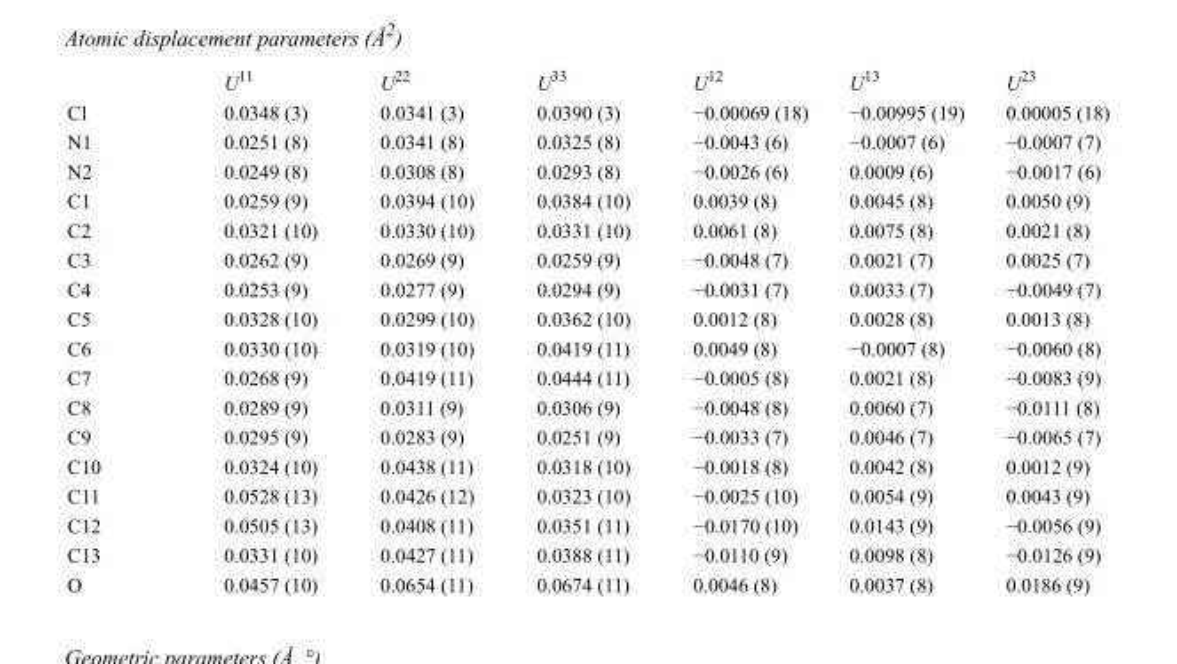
<table><thead><tr><td></td><td>U<sup>11</sup></td><td>U<sup>22</sup></td><td>U<sup>33</sup></td><td>U<sup>12</sup></td><td>U<sup>13</sup></td><td>U<sup>23</sup></td></tr></thead><tbody><tr><td>Cl</td><td>0.0348 (3)</td><td>0.0341 (3)</td><td>0.0390 (3)</td><td>−0.00069 (18)</td><td>−0.00995 (19)</td><td>0.00005 (18)</td></tr><tr><td>N1</td><td>0.0251 (8)</td><td>0.0341 (8)</td><td>0.0325 (8)</td><td>−0.0043 (6)</td><td>−0.0007 (6)</td><td>−0.0007 (7)</td></tr><tr><td>N2</td><td>0.0249 (8)</td><td>0.0308 (8)</td><td>0.0293 (8)</td><td>−0.0026 (6)</td><td>0.0009 (6)</td><td>−0.0017 (6)</td></tr><tr><td>C1</td><td>0.0259 (9)</td><td>0.0394 (10)</td><td>0.0384 (10)</td><td>0.0039 (8)</td><td>0.0045 (8)</td><td>0.0050 (9)</td></tr><tr><td>C2</td><td>0.0321 (10)</td><td>0.0330 (10)</td><td>0.0331 (10)</td><td>0.0061 (8)</td><td>0.0075 (8)</td><td>0.0021 (8)</td></tr><tr><td>C3</td><td>0.0262 (9)</td><td>0.0269 (9)</td><td>0.0259 (9)</td><td>−0.0048 (7)</td><td>0.0021 (7)</td><td>0.0025 (7)</td></tr><tr><td>C4</td><td>0.0253 (9)</td><td>0.0277 (9)</td><td>0.0294 (9)</td><td>−0.0031 (7)</td><td>0.0033 (7)</td><td>−0.0049 (7)</td></tr><tr><td>C5</td><td>0.0328 (10)</td><td>0.0299 (10)</td><td>0.0362 (10)</td><td>0.0012 (8)</td><td>0.0028 (8)</td><td>0.0013 (8)</td></tr><tr><td>C6</td><td>0.0330 (10)</td><td>0.0319 (10)</td><td>0.0419 (11)</td><td>0.0049 (8)</td><td>−0.0007 (8)</td><td>−0.0060 (8)</td></tr><tr><td>C7</td><td>0.0268 (9)</td><td>0.0419 (11)</td><td>0.0444 (11)</td><td>−0.0005 (8)</td><td>0.0021 (8)</td><td>−0.0083 (9)</td></tr><tr><td>C8</td><td>0.0289 (9)</td><td>0.0311 (9)</td><td>0.0306 (9)</td><td>−0.0048 (8)</td><td>0.0060 (7)</td><td>−0.0111 (8)</td></tr><tr><td>C9</td><td>0.0295 (9)</td><td>0.0283 (9)</td><td>0.0251 (9)</td><td>−0.0033 (7)</td><td>0.0046 (7)</td><td>−0.0065 (7)</td></tr><tr><td>C10</td><td>0.0324 (10)</td><td>0.0438 (11)</td><td>0.0318 (10)</td><td>−0.0018 (8)</td><td>0.0042 (8)</td><td>0.0012 (9)</td></tr><tr><td>C11</td><td>0.0528 (13)</td><td>0.0426 (12)</td><td>0.0323 (10)</td><td>−0.0025 (10)</td><td>0.0054 (9)</td><td>0.0043 (9)</td></tr><tr><td>C12</td><td>0.0505 (13)</td><td>0.0408 (11)</td><td>0.0351 (11)</td><td>−0.0170 (10)</td><td>0.0143 (9)</td><td>−0.0056 (9)</td></tr><tr><td>C13</td><td>0.0331 (10)</td><td>0.0427 (11)</td><td>0.0388 (11)</td><td>−0.0110 (9)</td><td>0.0098 (8)</td><td>−0.0126 (9)</td></tr><tr><td>O</td><td>0.0457 (10)</td><td>0.0654 (11)</td><td>0.0674 (11)</td><td>0.0046 (8)</td><td>0.0037 (8)</td><td>0.0186 (9)</td></tr></tbody></table>